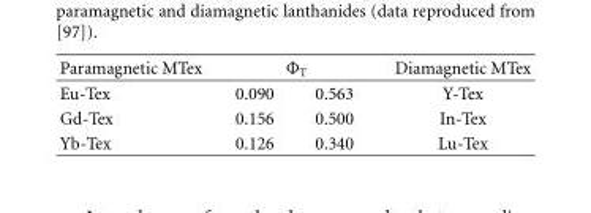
<table><thead><tr><td rowspan="2">Paramagnetic MTex Eu-Tex</td><td colspan="2">Φ<sub>T</sub></td><td rowspan="2">Diamagnetic MTex Y-Tex</td></tr><tr><td>0.090</td><td>0.563</td></tr></thead><tbody><tr><td>Gd-Tex</td><td>0.156</td><td>0.500</td><td>In-Tex</td></tr><tr><td>Yb-Tex</td><td>0.126</td><td>0.340</td><td>Lu-Tex</td></tr></tbody></table>